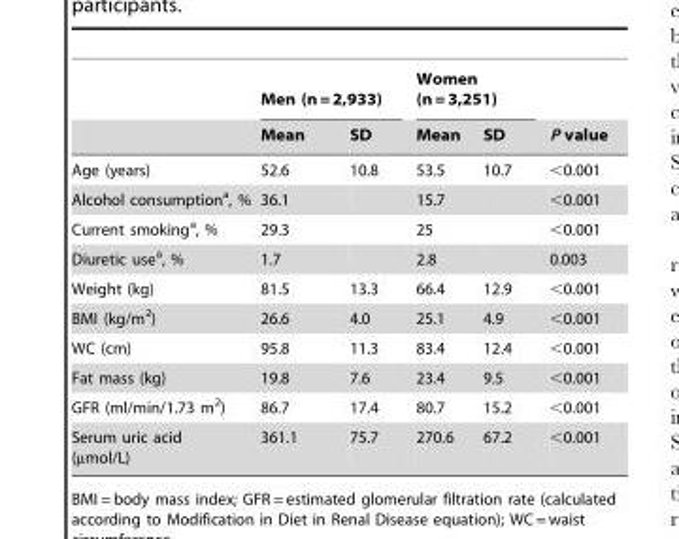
<table><thead><tr><td rowspan="2"></td><td colspan="2">Men (n = 2,933)</td><td colspan="2">Women (n = 3,251)</td><td rowspan="2">P value</td></tr><tr><td>Mean</td><td>SD</td><td>Mean</td><td>SD</td></tr></thead><tbody><tr><td>Age (years)</td><td>52.6</td><td>10.8</td><td>53.5</td><td>10.7</td><td>&lt;0.001</td></tr><tr><td>Alcohol consumption<sup>a</sup>, %</td><td>36.1</td><td></td><td>15.7</td><td></td><td>&lt;0.001</td></tr><tr><td>Current smoking<sup>a</sup>, %</td><td>29.3</td><td></td><td>25</td><td></td><td>&lt;0.001</td></tr><tr><td>Diuretic use<sup>a</sup>, %</td><td>1.7</td><td></td><td>2.8</td><td></td><td>0.003</td></tr><tr><td>Weight (kg)</td><td>81.5</td><td>13.3</td><td>66.4</td><td>12.9</td><td>&lt;0.001</td></tr><tr><td>BMI (kg/m<sup>2</sup>)</td><td>26.6</td><td>4.0</td><td>25.1</td><td>4.9</td><td>&lt;0.001</td></tr><tr><td>WC (cm)</td><td>95.8</td><td>11.3</td><td>83.4</td><td>12.4</td><td>&lt;0.001</td></tr><tr><td>Fat mass (kg)</td><td>19.8</td><td>7.6</td><td>23.4</td><td>9.5</td><td>&lt;0.001</td></tr><tr><td>GFR (ml/min/1.73 m<sup>2</sup>)</td><td>86.7</td><td>17.4</td><td>80.7</td><td>15.2</td><td>&lt;0.001</td></tr><tr><td>Serum uric acid (µmol/L)</td><td>361.1</td><td>75.7</td><td>270.6</td><td>67.2</td><td>&lt;0.001</td></tr></tbody></table>